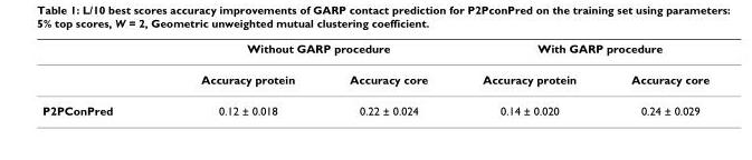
<table><thead><tr><td rowspan="2"></td><td colspan="2">Without GARP procedure</td><td colspan="2">With GARP procedure</td></tr><tr><td>Accuracy protein</td><td>Accuracy core</td><td>Accuracy protein</td><td>Accuracy core</td></tr></thead><tbody><tr><td>P2PConPred</td><td>0.12 ± 0.018</td><td>0.22 ± 0.024</td><td>0.14 ± 0.020</td><td>0.24 ± 0.029</td></tr></tbody></table>